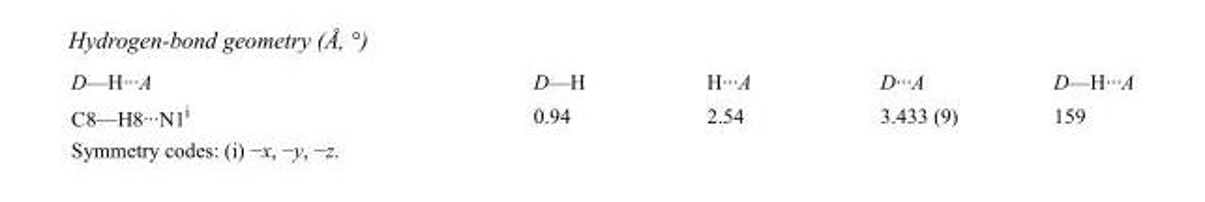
<table><tbody><tr><td>D—H···A</td><td>D—H</td><td>H···A</td><td>D···A</td><td>D—H···A</td></tr><tr><td>C8—H8···N1<sup>i</sup></td><td>0.94</td><td>2.54</td><td>3.433 (9)</td><td>159</td></tr></tbody></table>